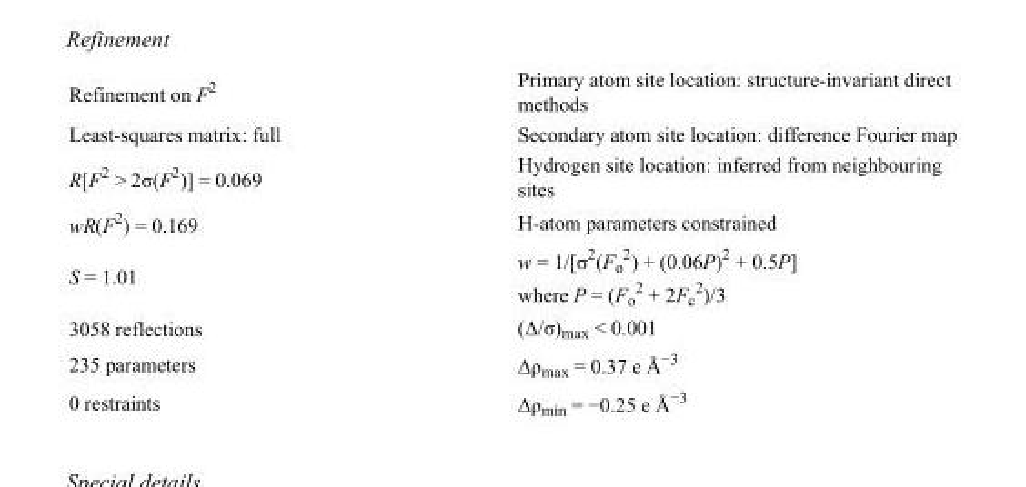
<table><tbody><tr><td>Refinement on F<sup>2</sup></td><td>Primary atom site location: structure-invariant direct methods</td></tr><tr><td>Least-squares matrix: full</td><td>Secondary atom site location: difference Fourier map</td></tr><tr><td>R[F<sup>2</sup> &gt; 2σ(F<sup>2</sup>)] = 0.069</td><td>Hydrogen site location: inferred from neighbouring sites</td></tr><tr><td>wR(F<sup>2</sup>) = 0.169</td><td>H-atom parameters constrained</td></tr><tr><td>S = 1.01</td><td>w = 1/[σ<sup>2</sup>(F<sub>o</sub> <sup>2</sup>) + (0.06P)<sup>2</sup> + 0.5P] where P = (F<sub>o</sub> <sup>2</sup> + 2F<sub>c</sub> <sup>2</sup>)/3</td></tr><tr><td>3058 reflections</td><td>(Δ/σ)<sub>max</sub> &lt; 0.001</td></tr><tr><td>235 parameters</td><td>Δρ<sub>max</sub> = 0.37 e Å<sup>−3</sup></td></tr><tr><td>0 restraints</td><td>Δρ<sub>min</sub> = −0.25 e Å<sup>−3</sup></td></tr></tbody></table>